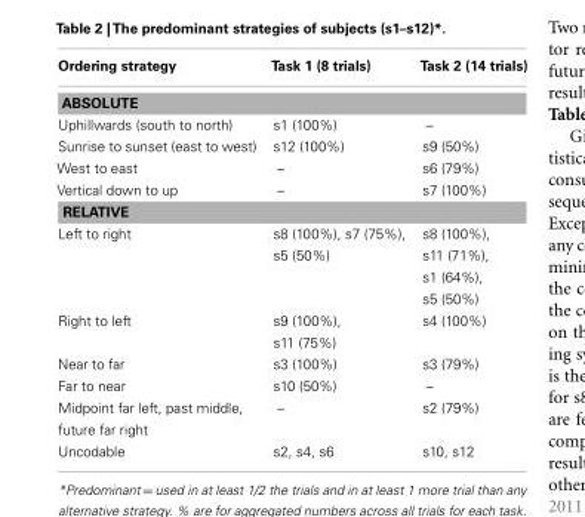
<table><thead><tr><td>Ordering strategy</td><td>Task 1 (8 trials)</td><td>Task 2 (14 trials)</td></tr></thead><tbody><tr><td colspan="3">ABSOLUTE</td></tr><tr><td>Uphillwards (south to north)</td><td>s1 (100%)</td><td>–</td></tr><tr><td>Sunrise to sunset (east to west)</td><td>s12 (100%)</td><td>s9 (50%)</td></tr><tr><td>West to east</td><td>–</td><td>s6 (79%)</td></tr><tr><td>Vertical down to up</td><td>–</td><td>s7 (100%)</td></tr><tr><td colspan="3">RELATIVE</td></tr><tr><td>Left to right</td><td>s8 (100%), s7 (75%), s5 (50%)</td><td>s8 (100%), s11 (71%), s1 (64%), s5 (50%)</td></tr><tr><td>Right to left</td><td>s9 (100%), s11 (75%)</td><td>s4 (100%)</td></tr><tr><td>Near to far</td><td>s3 (100%)</td><td>s3 (79%)</td></tr><tr><td>Far to near</td><td>s10 (50%)</td><td>–</td></tr><tr><td>Midpoint far left, past middle, future far right</td><td>–</td><td>s2 (79%)</td></tr><tr><td>Uncodable</td><td>s2, s4, s6</td><td>s10, s12</td></tr></tbody></table>